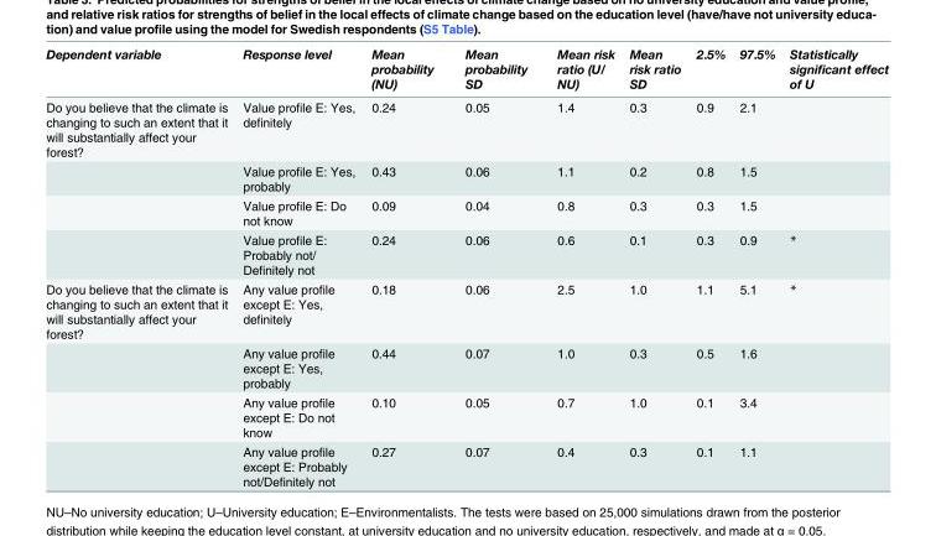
<table><thead><tr><td>Dependent variable</td><td>Response level</td><td>Mean probability (NU)</td><td>Mean probability SD</td><td>Mean risk ratio (U/ NU)</td><td>Mean risk ratio SD</td><td>2.5%</td><td>97.5%</td><td>Statistically significant effect of U</td></tr></thead><tbody><tr><td rowspan="4">Do you believe that the climate is changing to such an extent that it will substantially affect your forest?</td><td>Value profile E: Yes, definitely</td><td>0.24</td><td>0.05</td><td>1.4</td><td>0.3</td><td>0.9</td><td>2.1</td><td></td></tr><tr><td>Value profile E: Yes, probably</td><td>0.43</td><td>0.06</td><td>1.1</td><td>0.2</td><td>0.8</td><td>1.5</td><td></td></tr><tr><td>Value profile E: Do not know</td><td>0.09</td><td>0.04</td><td>0.8</td><td>0.3</td><td>0.3</td><td>1.5</td><td></td></tr><tr><td>Value profile E: Probably not/ Definitely not</td><td>0.24</td><td>0.06</td><td>0.6</td><td>0.1</td><td>0.3</td><td>0.9</td><td>*</td></tr><tr><td rowspan="4">Do you believe that the climate is changing to such an extent that it will substantially affect your forest?</td><td>Any value profile except E: Yes, definitely</td><td>0.18</td><td>0.06</td><td>2.5</td><td>1.0</td><td>1.1</td><td>5.1</td><td>*</td></tr><tr><td>Any value profile except E: Yes, probably</td><td>0.44</td><td>0.07</td><td>1.0</td><td>0.3</td><td>0.5</td><td>1.6</td><td></td></tr><tr><td>Any value profile except E: Do not know</td><td>0.10</td><td>0.05</td><td>0.7</td><td>1.0</td><td>0.1</td><td>3.4</td><td></td></tr><tr><td>Any value profile except E: Probably not/Definitely not</td><td>0.27</td><td>0.07</td><td>0.4</td><td>0.3</td><td>0.1</td><td>1.1</td><td></td></tr></tbody></table>